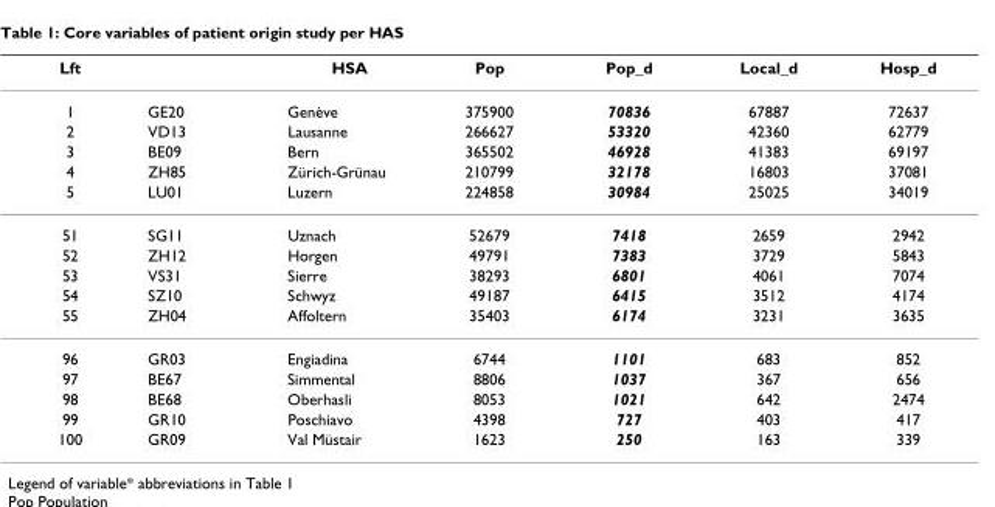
<table><thead><tr><td>Lft</td><td></td><td>HSA</td><td>Pop</td><td>Pop_d</td><td>Local_d</td><td>Hosp_d</td></tr></thead><tbody><tr><td>1</td><td>GE20</td><td>Genève</td><td>375900</td><td>70836</td><td>67887</td><td>72637</td></tr><tr><td>2</td><td>VD13</td><td>Lausanne</td><td>266627</td><td>53320</td><td>42360</td><td>62779</td></tr><tr><td>3</td><td>BE09</td><td>Bern</td><td>365502</td><td>46928</td><td>41383</td><td>69197</td></tr><tr><td>4</td><td>ZH85</td><td>Zürich-Grünau</td><td>210799</td><td>32178</td><td>16803</td><td>37081</td></tr><tr><td>5</td><td>LU01</td><td>Luzern</td><td>224858</td><td>30984</td><td>25025</td><td>34019</td></tr><tr><td>51</td><td>SG11</td><td>Uznach</td><td>52679</td><td>7418</td><td>2659</td><td>2942</td></tr><tr><td>52</td><td>ZH12</td><td>Horgen</td><td>49791</td><td>7383</td><td>3729</td><td>5843</td></tr><tr><td>53</td><td>VS31</td><td>Sierre</td><td>38293</td><td>6801</td><td>4061</td><td>7074</td></tr><tr><td>54</td><td>SZ10</td><td>Schwyz</td><td>49187</td><td>6415</td><td>3512</td><td>4174</td></tr><tr><td>55</td><td>ZH04</td><td>Affoltern</td><td>35403</td><td>6174</td><td>3231</td><td>3635</td></tr><tr><td>96</td><td>GR03</td><td>Engiadina</td><td>6744</td><td>1101</td><td>683</td><td>852</td></tr><tr><td>97</td><td>BE67</td><td>Simmental</td><td>8806</td><td>1037</td><td>367</td><td>656</td></tr><tr><td>98</td><td>BE68</td><td>Oberhasli</td><td>8053</td><td>1021</td><td>642</td><td>2474</td></tr><tr><td>99</td><td>GR10</td><td>Poschiavo</td><td>4398</td><td>727</td><td>403</td><td>417</td></tr><tr><td>100</td><td>GR09</td><td>Val Müstair</td><td>1623</td><td>250</td><td>163</td><td>339</td></tr></tbody></table>